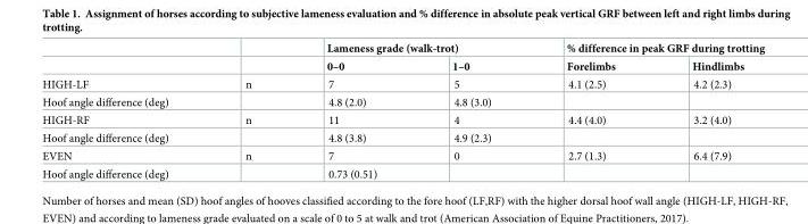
<table><thead><tr><td rowspan="2"></td><td rowspan="2"></td><td colspan="2">Lameness grade (walk-trot)</td><td colspan="2">% difference in peak GRF during trotting</td></tr><tr><td>0–0</td><td>1–0</td><td>Forelimbs</td><td>Hindlimbs</td></tr></thead><tbody><tr><td>HIGH-LF</td><td>n</td><td>7</td><td>5</td><td>4.1 (2.5)</td><td>4.2 (2.3)</td></tr><tr><td>Hoof angle difference (deg)</td><td></td><td>4.8 (2.0)</td><td>4.8 (3.0)</td><td></td><td></td></tr><tr><td>HIGH-RF</td><td>n</td><td>11</td><td>4</td><td>4.4 (4.0)</td><td>3.2 (4.0)</td></tr><tr><td>Hoof angle difference (deg)</td><td></td><td>4.8 (3.8)</td><td>4.9 (2.3)</td><td></td><td></td></tr><tr><td>EVEN</td><td>n</td><td>7</td><td>0</td><td>2.7 (1.3)</td><td>6.4 (7.9)</td></tr><tr><td>Hoof angle difference (deg)</td><td></td><td>0.73 (0.51)</td><td></td><td></td><td></td></tr></tbody></table>